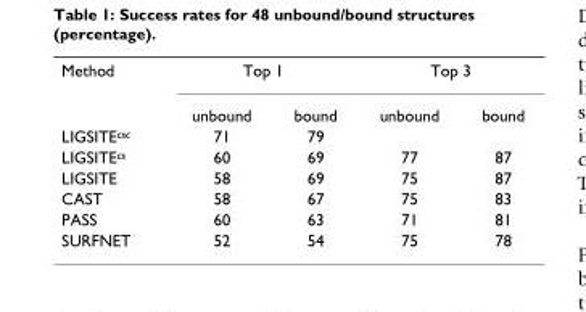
<table><tbody><tr><td rowspan="2">Method</td><td colspan="2">Top 1</td><td colspan="2">Top 3</td></tr><tr><td>unbound</td><td>bound</td><td>unbound</td><td>bound</td></tr><tr><td>LIGSITEcsc</td><td>71</td><td>79</td><td></td><td></td></tr><tr><td>LIGSITEcs</td><td>60</td><td>69</td><td>77</td><td>87</td></tr><tr><td>LIGSITE</td><td>58</td><td>69</td><td>75</td><td>87</td></tr><tr><td>CAST</td><td>58</td><td>67</td><td>75</td><td>83</td></tr><tr><td>PASS</td><td>60</td><td>63</td><td>71</td><td>81</td></tr><tr><td>SURFNET</td><td>52</td><td>54</td><td>75</td><td>78</td></tr></tbody></table>